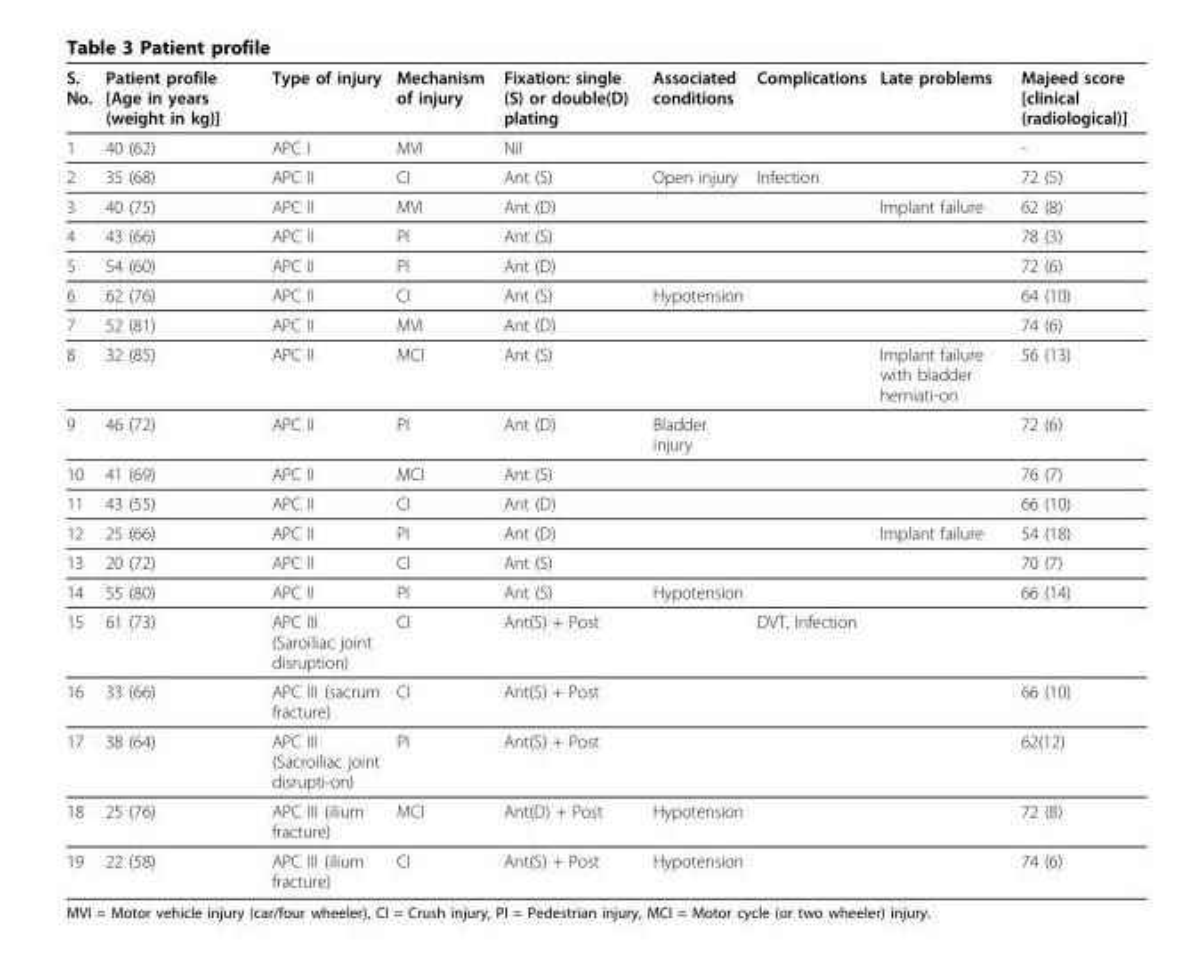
<table><thead><tr><td>S. No.</td><td>Patient profile [Age in years (weight in kg)]</td><td>Type of injury</td><td>Mechanism of injury</td><td>Fixation: single (S) or double(D) plating</td><td>Associated conditions</td><td>Complications</td><td>Late problems</td><td>Majeed score [clinical (radiological)]</td></tr></thead><tbody><tr><td>1</td><td>40 (62)</td><td>APC I</td><td>MVI</td><td>Nil</td><td></td><td></td><td></td><td>-</td></tr><tr><td>2</td><td>35 (68)</td><td>APC II</td><td>CI</td><td>Ant (S)</td><td>Open injury</td><td>Infection</td><td></td><td>72 (5)</td></tr><tr><td>3</td><td>40 (75)</td><td>APC II</td><td>MVI</td><td>Ant (D)</td><td></td><td></td><td>Implant failure</td><td>62 (8)</td></tr><tr><td>4</td><td>43 (66)</td><td>APC II</td><td>PI</td><td>Ant (S)</td><td></td><td></td><td></td><td>78 (3)</td></tr><tr><td>5</td><td>54 (60)</td><td>APC II</td><td>PI</td><td>Ant (D)</td><td></td><td></td><td></td><td>72 (6)</td></tr><tr><td>6</td><td>62 (76)</td><td>APC II</td><td>CI</td><td>Ant (S)</td><td>Hypotension</td><td></td><td></td><td>64 (10)</td></tr><tr><td>7</td><td>52 (81)</td><td>APC II</td><td>MVI</td><td>Ant (D)</td><td></td><td></td><td></td><td>74 (6)</td></tr><tr><td>8</td><td>32 (85)</td><td>APC II</td><td>MCI</td><td>Ant (S)</td><td></td><td></td><td>Implant failure with bladder herniati-on</td><td>56 (13)</td></tr><tr><td>9</td><td>46 (72)</td><td>APC II</td><td>PI</td><td>Ant (D)</td><td>Bladder injury</td><td></td><td></td><td>72 (6)</td></tr><tr><td>10</td><td>41 (69)</td><td>APC II</td><td>MCI</td><td>Ant (S)</td><td></td><td></td><td></td><td>76 (7)</td></tr><tr><td>11</td><td>43 (55)</td><td>APC II</td><td>CI</td><td>Ant (D)</td><td></td><td></td><td></td><td>66 (10)</td></tr><tr><td>12</td><td>25 (66)</td><td>APC II</td><td>PI</td><td>Ant (D)</td><td></td><td></td><td>Implant failure</td><td>54 (18)</td></tr><tr><td>13</td><td>20 (72)</td><td>APC II</td><td>CI</td><td>Ant (S)</td><td></td><td></td><td></td><td>70 (7)</td></tr><tr><td>14</td><td>55 (80)</td><td>APC II</td><td>PI</td><td>Ant (S)</td><td>Hypotension</td><td></td><td></td><td>66 (14)</td></tr><tr><td>15</td><td>61 (73)</td><td>APC III (Saroiliac joint disruption)</td><td>CI</td><td>Ant(S) + Post</td><td></td><td>DVT, Infection</td><td></td><td></td></tr><tr><td>16</td><td>33 (66)</td><td>APC III (sacrum fracture)</td><td>CI</td><td>Ant(S) + Post</td><td></td><td></td><td></td><td>66 (10)</td></tr><tr><td>17</td><td>38 (64)</td><td>APC III (Sacroiliac joint disrupti-on)</td><td>PI</td><td>Ant(S) + Post</td><td></td><td></td><td></td><td>62(12)</td></tr><tr><td>18</td><td>25 (76)</td><td>APC III (ilium fracture)</td><td>MCI</td><td>Ant(D) + Post</td><td>Hypotension</td><td></td><td></td><td>72 (8)</td></tr><tr><td>19</td><td>22 (58)</td><td>APC III (ilium fracture)</td><td>CI</td><td>Ant(S) + Post</td><td>Hypotension</td><td></td><td></td><td>74 (6)</td></tr></tbody></table>